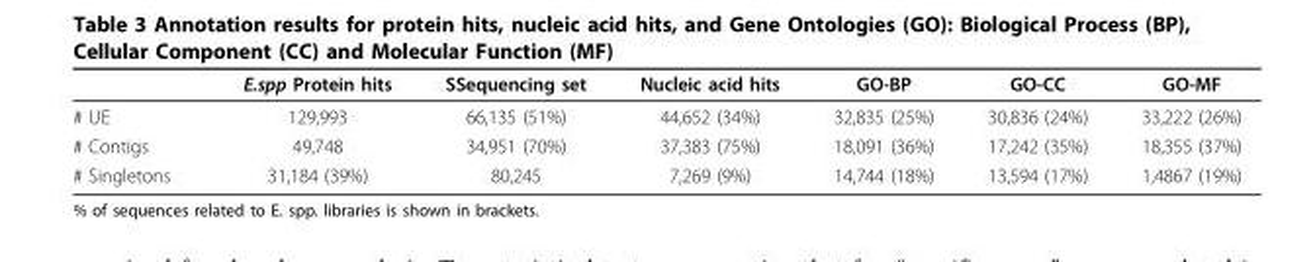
<table><thead><tr><td></td><td>E.spp Protein hits</td><td>SSequencing set</td><td>Nucleic acid hits</td><td>GO-BP</td><td>GO-CC</td><td>GO-MF</td></tr></thead><tbody><tr><td># UE</td><td>129,993</td><td>66,135 (51%)</td><td>44,652 (34%)</td><td>32,835 (25%)</td><td>30,836 (24%)</td><td>33,222 (26%)</td></tr><tr><td># Contigs</td><td>49,748</td><td>34,951 (70%)</td><td>37,383 (75%)</td><td>18,091 (36%)</td><td>17,242 (35%)</td><td>18,355 (37%)</td></tr><tr><td># Singletons</td><td>31,184 (39%)</td><td>80,245</td><td>7,269 (9%)</td><td>14,744 (18%)</td><td>13,594 (17%)</td><td>1,4867 (19%)</td></tr></tbody></table>